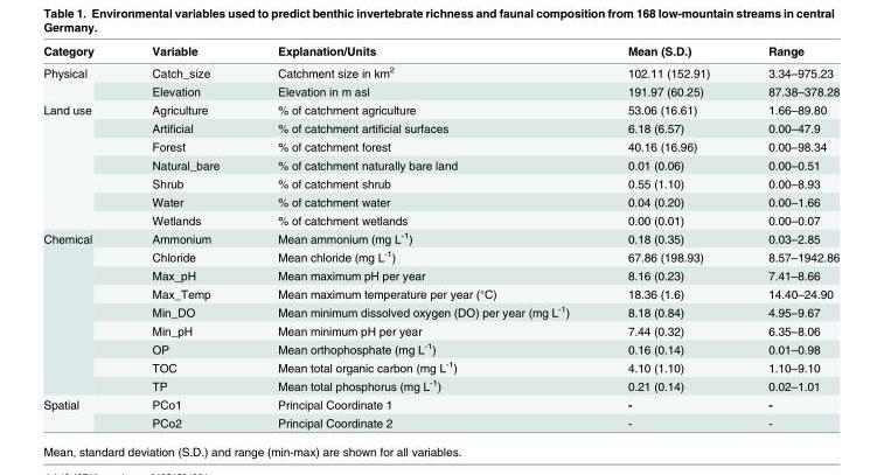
<table><thead><tr><td>Category</td><td>Variable</td><td>Explanation/Units</td><td>Mean (S.D.)</td><td>Range</td></tr></thead><tbody><tr><td rowspan="2">Physical</td><td>Catch_size</td><td>Catchment size in km<sup>2</sup></td><td>102.11 (152.91)</td><td>3.34–975.23</td></tr><tr><td>Elevation</td><td>Elevation in m asl</td><td>191.97 (60.25)</td><td>87.38–378.28</td></tr><tr><td rowspan="7">Land use</td><td>Agriculture</td><td>% of catchment agriculture</td><td>53.06 (16.61)</td><td>1.66–89.80</td></tr><tr><td>Artificial</td><td>% of catchment artificial surfaces</td><td>6.18 (6.57)</td><td>0.00–47.9</td></tr><tr><td>Forest</td><td>% of catchment forest</td><td>40.16 (16.96)</td><td>0.00–98.34</td></tr><tr><td>Natural_bare</td><td>% of catchment naturally bare land</td><td>0.01 (0.06)</td><td>0.00–0.51</td></tr><tr><td>Shrub</td><td>% of catchment shrub</td><td>0.55 (1.10)</td><td>0.00–8.93</td></tr><tr><td>Water</td><td>% of catchment water</td><td>0.04 (0.20)</td><td>0.00–1.66</td></tr><tr><td>Wetlands</td><td>% of catchment wetlands</td><td>0.00 (0.01)</td><td>0.00–0.07</td></tr><tr><td rowspan="9">Chemical</td><td>Ammonium</td><td>Mean ammonium (mg L<sup>-1</sup>)</td><td>0.18 (0.35)</td><td>0.03–2.85</td></tr><tr><td>Chloride</td><td>Mean chloride (mg L<sup>-1</sup>)</td><td>67.86 (198.93)</td><td>8.57–1942.86</td></tr><tr><td>Max_pH</td><td>Mean maximum pH per year</td><td>8.16 (0.23)</td><td>7.41–8.66</td></tr><tr><td>Max_Temp</td><td>Mean maximum temperature per year (°C)</td><td>18.36 (1.6)</td><td>14.40–24.90</td></tr><tr><td>Min_DO</td><td>Mean minimum dissolved oxygen (DO) per year (mg L<sup>-1</sup>)</td><td>8.18 (0.84)</td><td>4.95–9.67</td></tr><tr><td>Min_pH</td><td>Mean minimum pH per year</td><td>7.44 (0.32)</td><td>6.35–8.06</td></tr><tr><td>OP</td><td>Mean orthophosphate (mg L<sup>-1</sup>)</td><td>0.16 (0.14)</td><td>0.01–0.98</td></tr><tr><td>TOC</td><td>Mean total organic carbon (mg L<sup>-1</sup>)</td><td>4.10 (1.10)</td><td>1.10–9.10</td></tr><tr><td>TP</td><td>Mean total phosphorus (mg L<sup>-1</sup>)</td><td>0.21 (0.14)</td><td>0.02–1.01</td></tr><tr><td rowspan="2">Spatial</td><td>PCo1</td><td>Principal Coordinate 1</td><td>-</td><td>-</td></tr><tr><td>PCo2</td><td>Principal Coordinate 2</td><td>-</td><td>-</td></tr></tbody></table>